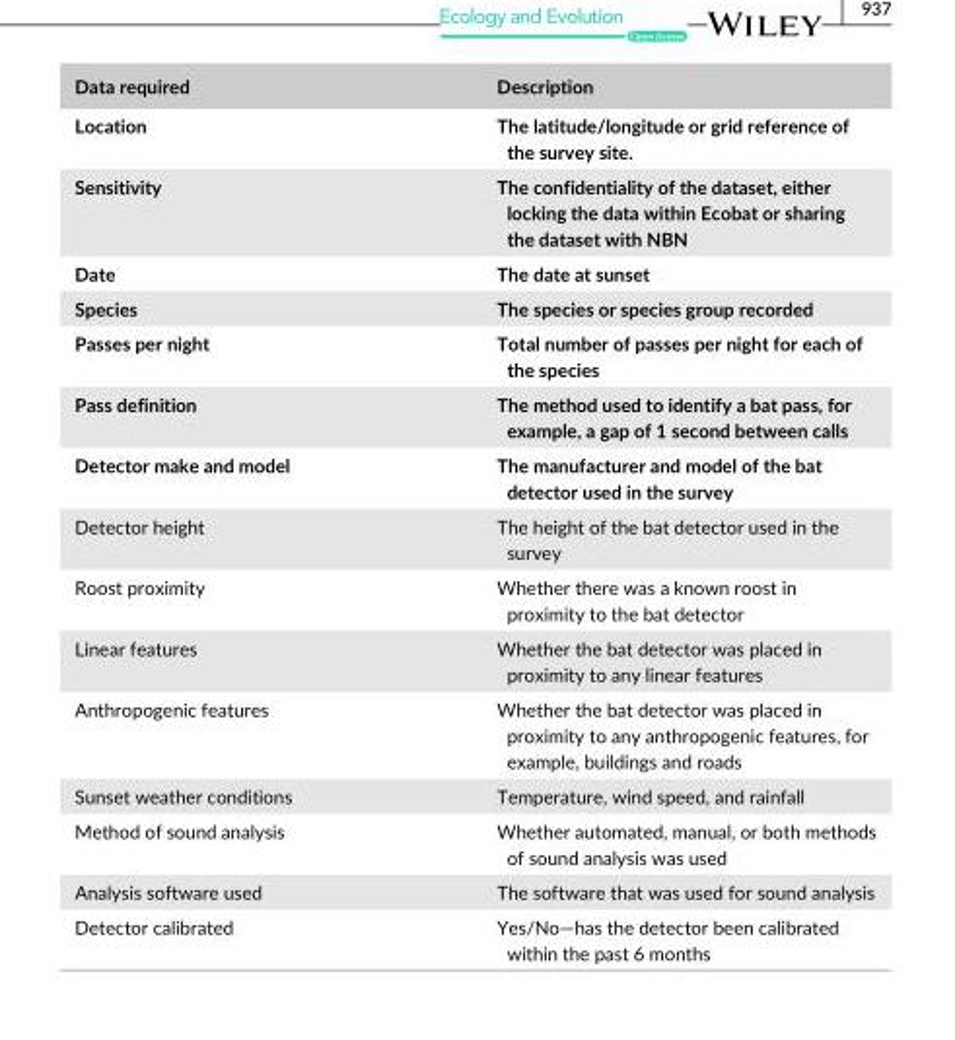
<table><thead><tr><td>Data required</td><td>Description</td></tr></thead><tbody><tr><td>Location</td><td>The latitude/longitude or grid reference of the survey site.</td></tr><tr><td>Sensitivity</td><td>The confidentiality of the dataset, either locking the data within Ecobat or sharing the dataset with NBN</td></tr><tr><td>Date</td><td>The date at sunset</td></tr><tr><td>Species</td><td>The species or species group recorded</td></tr><tr><td>Passes per night</td><td>Total number of passes per night for each of the species</td></tr><tr><td>Pass definition</td><td>The method used to identify a bat pass, for example, a gap of 1 second between calls</td></tr><tr><td>Detector make and model</td><td>The manufacturer and model of the bat detector used in the survey</td></tr><tr><td>Detector height</td><td>The height of the bat detector used in the survey</td></tr><tr><td>Roost proximity</td><td>Whether there was a known roost in proximity to the bat detector</td></tr><tr><td>Linear features</td><td>Whether the bat detector was placed in proximity to any linear features</td></tr><tr><td>Anthropogenic features</td><td>Whether the bat detector was placed in proximity to any anthropogenic features, for example, buildings and roads</td></tr><tr><td>Sunset weather conditions</td><td>Temperature, wind speed, and rainfall</td></tr><tr><td>Method of sound analysis</td><td>Whether automated, manual, or both methods of sound analysis was used</td></tr><tr><td>Analysis software used</td><td>The software that was used for sound analysis</td></tr><tr><td>Detector calibrated</td><td>Yes/No—has the detector been calibrated within the past 6 months</td></tr></tbody></table>